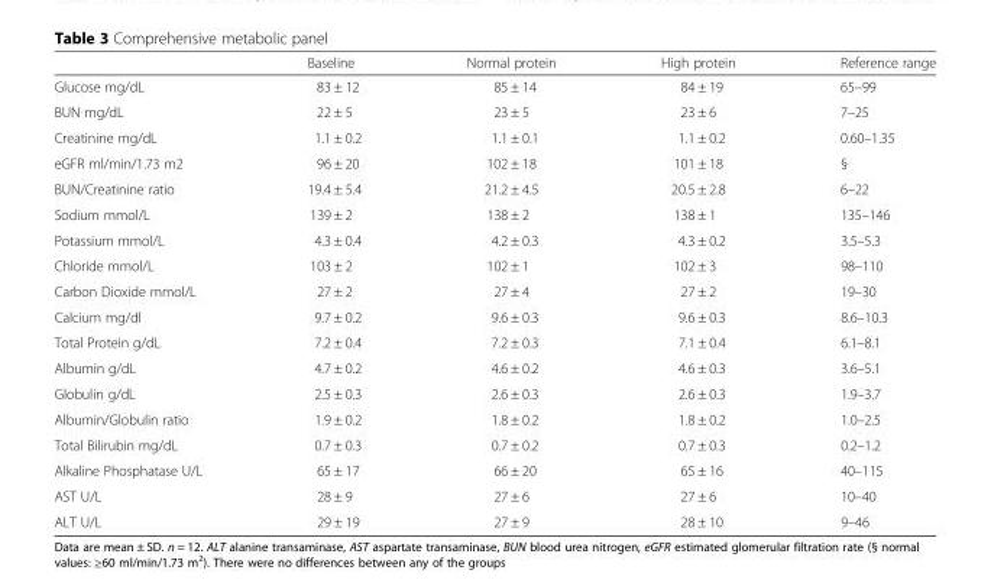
<table><thead><tr><td></td><td>Baseline</td><td>Normal protein</td><td>High protein</td><td>Reference range</td></tr></thead><tbody><tr><td>Glucose mg/dL</td><td>83 ± 12</td><td>85 ± 14</td><td>84 ± 19</td><td>65–99</td></tr><tr><td>BUN mg/dL</td><td>22 ± 5</td><td>23 ± 5</td><td>23 ± 6</td><td>7–25</td></tr><tr><td>Creatinine mg/dL</td><td>1.1 ± 0.2</td><td>1.1 ± 0.1</td><td>1.1 ± 0.2</td><td>0.60–1.35</td></tr><tr><td>eGFR ml/min/1.73 m2</td><td>96 ± 20</td><td>102 ± 18</td><td>101 ± 18</td><td>§</td></tr><tr><td>BUN/Creatinine ratio</td><td>19.4 ± 5.4</td><td>21.2 ± 4.5</td><td>20.5 ± 2.8</td><td>6–22</td></tr><tr><td>Sodium mmol/L</td><td>139 ± 2</td><td>138 ± 2</td><td>138 ± 1</td><td>135–146</td></tr><tr><td>Potassium mmol/L</td><td>4.3 ± 0.4</td><td>4.2 ± 0.3</td><td>4.3 ± 0.2</td><td>3.5–5.3</td></tr><tr><td>Chloride mmol/L</td><td>103 ± 2</td><td>102 ± 1</td><td>102 ± 3</td><td>98–110</td></tr><tr><td>Carbon Dioxide mmol/L</td><td>27 ± 2</td><td>27 ± 4</td><td>27 ± 2</td><td>19–30</td></tr><tr><td>Calcium mg/dl</td><td>9.7 ± 0.2</td><td>9.6 ± 0.3</td><td>9.6 ± 0.3</td><td>8.6–10.3</td></tr><tr><td>Total Protein g/dL</td><td>7.2 ± 0.4</td><td>7.2 ± 0.3</td><td>7.1 ± 0.4</td><td>6.1–8.1</td></tr><tr><td>Albumin g/dL</td><td>4.7 ± 0.2</td><td>4.6 ± 0.2</td><td>4.6 ± 0.3</td><td>3.6–5.1</td></tr><tr><td>Globulin g/dL</td><td>2.5 ± 0.3</td><td>2.6 ± 0.3</td><td>2.6 ± 0.3</td><td>1.9–3.7</td></tr><tr><td>Albumin/Globulin ratio</td><td>1.9 ± 0.2</td><td>1.8 ± 0.2</td><td>1.8 ± 0.2</td><td>1.0–2.5</td></tr><tr><td>Total Bilirubin mg/dL</td><td>0.7 ± 0.3</td><td>0.7 ± 0.2</td><td>0.7 ± 0.3</td><td>0.2–1.2</td></tr><tr><td>Alkaline Phosphatase U/L</td><td>65 ± 17</td><td>66 ± 20</td><td>65 ± 16</td><td>40–115</td></tr><tr><td>AST U/L</td><td>28 ± 9</td><td>27 ± 6</td><td>27 ± 6</td><td>10–40</td></tr><tr><td>ALT U/L</td><td>29 ± 19</td><td>27 ± 9</td><td>28 ± 10</td><td>9–46</td></tr></tbody></table>